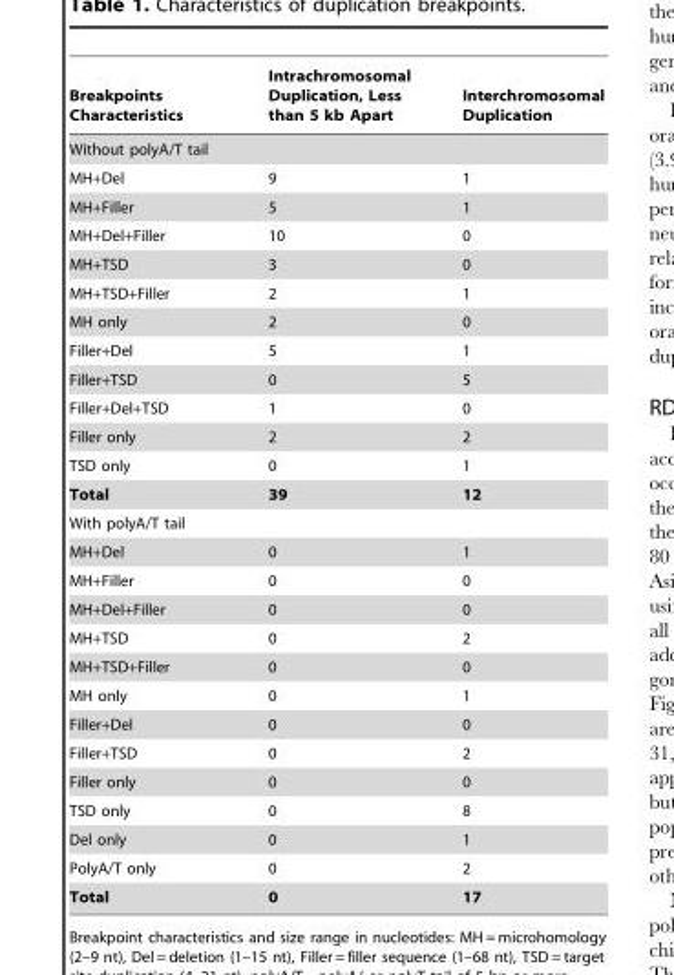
<table><thead><tr><td>Breakpoints Characteristics</td><td>Intrachromosomal Duplication, Less than 5 kb Apart</td><td>Interchromosomal Duplication</td></tr></thead><tbody><tr><td colspan="3">Without polyA/T tail</td></tr><tr><td>MH+Del</td><td>9</td><td>1</td></tr><tr><td>MH+Filler</td><td>5</td><td>1</td></tr><tr><td>MH+Del+Filler</td><td>10</td><td>0</td></tr><tr><td>MH+TSD</td><td>3</td><td>0</td></tr><tr><td>MH+TSD+Filler</td><td>2</td><td>1</td></tr><tr><td>MH only</td><td>2</td><td>0</td></tr><tr><td>Filler+Del</td><td>5</td><td>1</td></tr><tr><td>Filler+TSD</td><td>0</td><td>5</td></tr><tr><td>Filler+Del+TSD</td><td>1</td><td>0</td></tr><tr><td>Filler only</td><td>2</td><td>2</td></tr><tr><td>TSD only</td><td>0</td><td>1</td></tr><tr><td>Total</td><td>39</td><td>12</td></tr><tr><td colspan="3">With polyA/T tail</td></tr><tr><td>MH+Del</td><td>0</td><td>1</td></tr><tr><td>MH+Filler</td><td>0</td><td>0</td></tr><tr><td>MH+Del+Filler</td><td>0</td><td>0</td></tr><tr><td>MH+TSD</td><td>0</td><td>2</td></tr><tr><td>MH+TSD+Filler</td><td>0</td><td>0</td></tr><tr><td>MH only</td><td>0</td><td>1</td></tr><tr><td>Filler+Del</td><td>0</td><td>0</td></tr><tr><td>Filler+TSD</td><td>0</td><td>2</td></tr><tr><td>Filler only</td><td>0</td><td>0</td></tr><tr><td>TSD only</td><td>0</td><td>8</td></tr><tr><td>Del only</td><td>0</td><td>1</td></tr><tr><td>PolyA/T only</td><td>0</td><td>2</td></tr><tr><td>Total</td><td>0</td><td>17</td></tr></tbody></table>